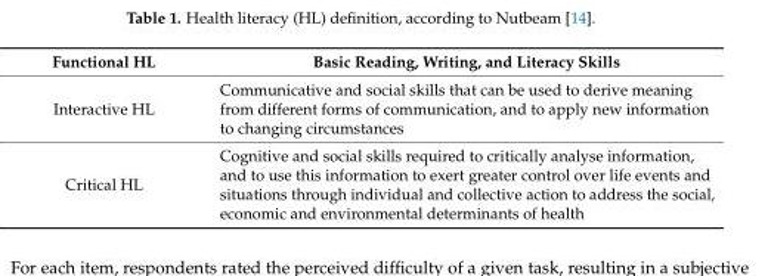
<table><thead><tr><td>Functional HL</td><td>Basic Reading, Writing, and Literacy Skills</td></tr></thead><tbody><tr><td>Interactive HL</td><td>Communicative and social skills that can be used to derive meaning from different forms of communication, and to apply new information to changing circumstances</td></tr><tr><td>Critical HL</td><td>Cognitive and social skills required to critically analyse information, and to use this information to exert greater control over life events and situations through individual and collective action to address the social, economic and environmental determinants of health</td></tr></tbody></table>